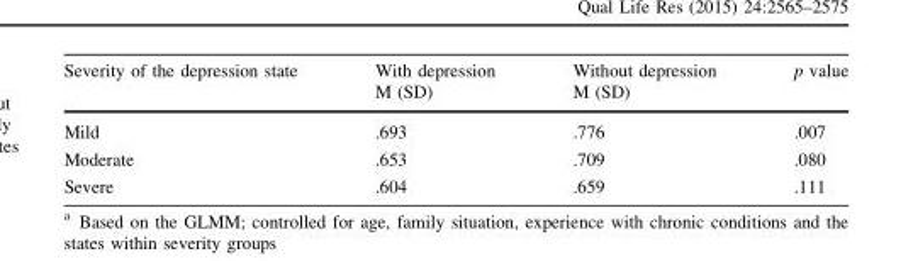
<table><thead><tr><td rowspan="2">Severity of the depression state</td><td rowspan="2">With depression M (SD)</td><td rowspan="2">Without depression M (SD)</td><td rowspan="2">p value</td></tr><tr></tr></thead><tbody><tr><td>Mild</td><td>.693</td><td>.776</td><td>.007</td></tr><tr><td>Moderate</td><td>.653</td><td>.709</td><td>.080</td></tr><tr><td>Severe</td><td>.604</td><td>.659</td><td>.111</td></tr></tbody></table>